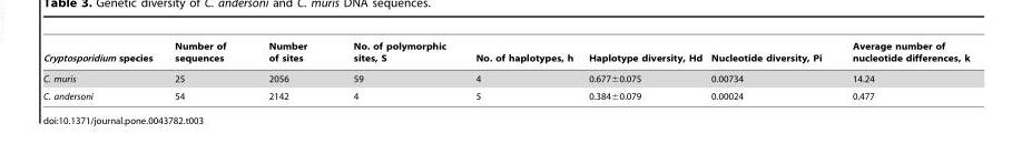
<table><thead><tr><td>Cryptosporidium species</td><td>Number of sequences</td><td>Number of sites</td><td>No. of polymorphic sites, S</td><td>No. of haplotypes, h</td><td>Haplotype diversity, Hd</td><td>Nucleotide diversity, Pi</td><td>Average number of nucleotide differences, k</td></tr></thead><tbody><tr><td>C. muris</td><td>25</td><td>2056</td><td>59</td><td>4</td><td>0.677±0.075</td><td>0.00734</td><td>14.24</td></tr><tr><td>C. andersoni</td><td>54</td><td>2142</td><td>4</td><td>5</td><td>0.384±0.079</td><td>0.00024</td><td>0.477</td></tr></tbody></table>